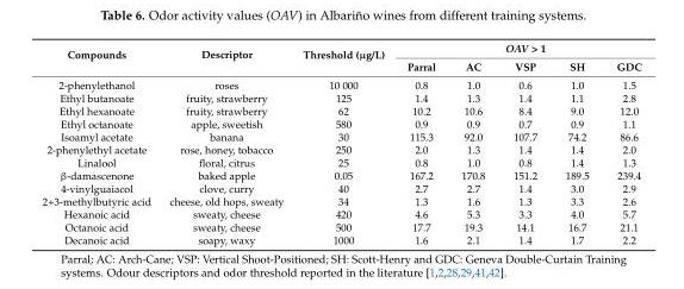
<table><thead><tr><td rowspan="2">Compounds</td><td rowspan="2">Descriptor</td><td rowspan="2">Threshold (µg/L)</td><td colspan="5">OAV &gt; 1</td></tr><tr><td>Parral</td><td>AC</td><td>VSP</td><td>SH</td><td>GDC</td></tr></thead><tbody><tr><td>2-phenylethanol</td><td>roses</td><td>10 000</td><td>0.8</td><td>1.0</td><td>0.6</td><td>1.0</td><td>1.5</td></tr><tr><td>Ethyl butanoate</td><td>fruity, strawberry</td><td>125</td><td>1.4</td><td>1.3</td><td>1.4</td><td>1.1</td><td>2.8</td></tr><tr><td>Ethyl hexanoate</td><td>fruity, strawberry</td><td>62</td><td>10.2</td><td>10.6</td><td>8.4</td><td>9.0</td><td>12.0</td></tr><tr><td>Ethyl octanoate</td><td>apple, sweetish</td><td>580</td><td>0.9</td><td>0.9</td><td>0.7</td><td>0.9</td><td>1.1</td></tr><tr><td>Isoamyl acetate</td><td>banana</td><td>30</td><td>115.3</td><td>92.0</td><td>107.7</td><td>74.2</td><td>86.6</td></tr><tr><td>2-phenylethyl acetate</td><td>rose, honey, tobacco</td><td>250</td><td>2.0</td><td>1.3</td><td>1.4</td><td>1.4</td><td>2.0</td></tr><tr><td>Linalool</td><td>floral, citrus</td><td>25</td><td>0.8</td><td>1.0</td><td>0.8</td><td>1.4</td><td>1.3</td></tr><tr><td>β-damascenone</td><td>baked apple</td><td>0.05</td><td>167.2</td><td>170.8</td><td>151.2</td><td>189.5</td><td>239.4</td></tr><tr><td>4-vinylguaiacol</td><td>clove, curry</td><td>40</td><td>2.7</td><td>2.7</td><td>1.4</td><td>3.0</td><td>2.9</td></tr><tr><td>2+3-methylbutyric acid</td><td>cheese, old hops, sweaty</td><td>34</td><td>1.3</td><td>1.6</td><td>1.3</td><td>3.3</td><td>2.6</td></tr><tr><td>Hexanoic acid</td><td>sweaty, cheese</td><td>420</td><td>4.6</td><td>5.3</td><td>3.3</td><td>4.0</td><td>5.7</td></tr><tr><td>Octanoic acid</td><td>sweaty, cheese</td><td>500</td><td>17.7</td><td>19.3</td><td>14.1</td><td>16.7</td><td>21.1</td></tr><tr><td>Decanoic acid</td><td>soapy, waxy</td><td>1000</td><td>1.6</td><td>2.1</td><td>1.4</td><td>1.7</td><td>2.2</td></tr></tbody></table>